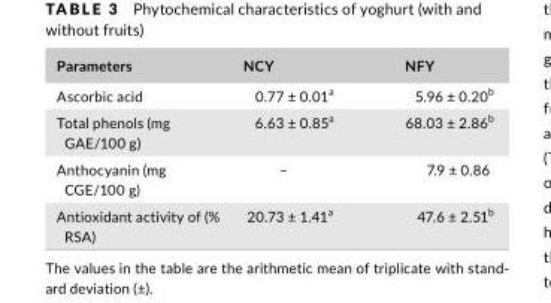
<table><thead><tr><td>Parameters</td><td>NCY</td><td>NFY</td></tr></thead><tbody><tr><td>Ascorbic acid</td><td>0.77 ± 0.01<sup>a</sup></td><td>5.96 ± 0.20<sup>b</sup></td></tr><tr><td>Total phenols (mg GAE/100 g)</td><td>6.63 ± 0.85<sup>a</sup></td><td>68.03 ± 2.86<sup>b</sup></td></tr><tr><td>Anthocyanin (mg CGE/100 g)</td><td>–</td><td>7.9 ± 0.86</td></tr><tr><td>Antioxidant activity of (% RSA)</td><td>20.73 ± 1.41<sup>a</sup></td><td>47.6 ± 2.51<sup>b</sup></td></tr></tbody></table>